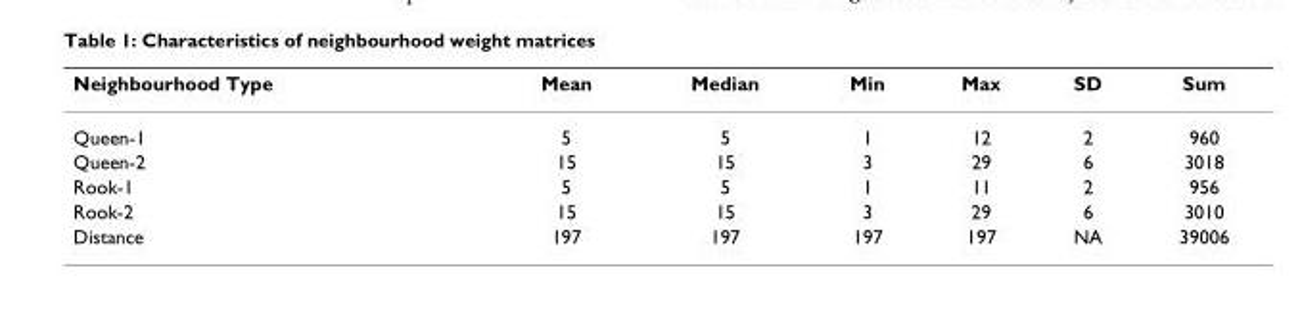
<table><thead><tr><td>Neighbourhood Type</td><td>Mean</td><td>Median</td><td>Min</td><td>Max</td><td>SD</td><td>Sum</td></tr></thead><tbody><tr><td>Queen-1</td><td>5</td><td>5</td><td>1</td><td>12</td><td>2</td><td>960</td></tr><tr><td>Queen-2</td><td>15</td><td>15</td><td>3</td><td>29</td><td>6</td><td>3018</td></tr><tr><td>Rook-1</td><td>5</td><td>5</td><td>1</td><td>11</td><td>2</td><td>956</td></tr><tr><td>Rook-2</td><td>15</td><td>15</td><td>3</td><td>29</td><td>6</td><td>3010</td></tr><tr><td>Distance</td><td>197</td><td>197</td><td>197</td><td>197</td><td>NA</td><td>39006</td></tr></tbody></table>